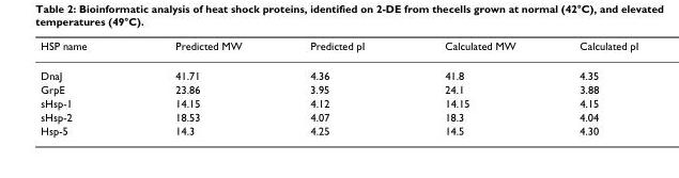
<table><thead><tr><td>HSP name</td><td>Predicted MW</td><td>Predicted pI</td><td>Calculated MW</td><td>Calculated pI</td></tr></thead><tbody><tr><td>DnaJ</td><td>41.71</td><td>4.36</td><td>41.8</td><td>4.35</td></tr><tr><td>GrpE</td><td>23.86</td><td>3.95</td><td>24.1</td><td>3.88</td></tr><tr><td>sHsp-1</td><td>14.15</td><td>4.12</td><td>14.15</td><td>4.15</td></tr><tr><td>sHsp-2</td><td>18.53</td><td>4.07</td><td>18.3</td><td>4.04</td></tr><tr><td>Hsp-5</td><td>14.3</td><td>4.25</td><td>14.5</td><td>4.30</td></tr></tbody></table>